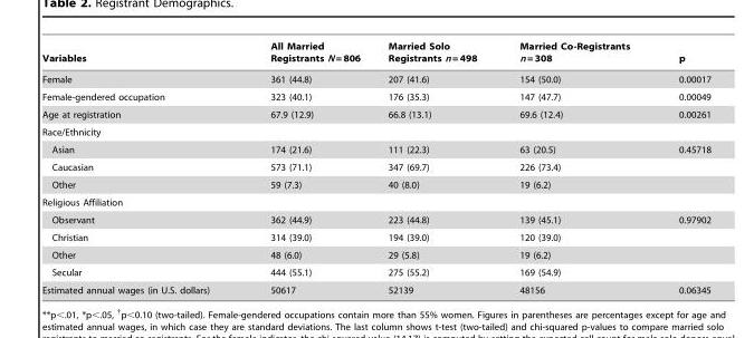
<table><thead><tr><td>Variables</td><td>All Married Registrants N = 806</td><td>Married Solo Registrants n = 498</td><td>Married Co-Registrants n = 308</td><td>p</td></tr></thead><tbody><tr><td>Female</td><td>361 (44.8)</td><td>207 (41.6)</td><td>154 (50.0)</td><td>0.00017</td></tr><tr><td>Female-gendered occupation</td><td>323 (40.1)</td><td>176 (35.3)</td><td>147 (47.7)</td><td>0.00049</td></tr><tr><td>Age at registration</td><td>67.9 (12.9)</td><td>66.8 (13.1)</td><td>69.6 (12.4)</td><td>0.00261</td></tr><tr><td colspan="5">Race/Ethnicity</td></tr><tr><td>Asian</td><td>174 (21.6)</td><td>111 (22.3)</td><td>63 (20.5)</td><td>0.45718</td></tr><tr><td>Caucasian</td><td>573 (71.1)</td><td>347 (69.7)</td><td>226 (73.4)</td><td></td></tr><tr><td>Other</td><td>59 (7.3)</td><td>40 (8.0)</td><td>19 (6.2)</td><td></td></tr><tr><td colspan="5">Religious Affiliation</td></tr><tr><td>Observant</td><td>362 (44.9)</td><td>223 (44.8)</td><td>139 (45.1)</td><td>0.97902</td></tr><tr><td>Christian</td><td>314 (39.0)</td><td>194 (39.0)</td><td>120 (39.0)</td><td></td></tr><tr><td>Other</td><td>48 (6.0)</td><td>29 (5.8)</td><td>19 (6.2)</td><td></td></tr><tr><td>Secular</td><td>444 (55.1)</td><td>275 (55.2)</td><td>169 (54.9)</td><td></td></tr><tr><td>Estimated annual wages (in U.S. dollars)</td><td>50617</td><td>52139</td><td>48156</td><td>0.06345</td></tr></tbody></table>